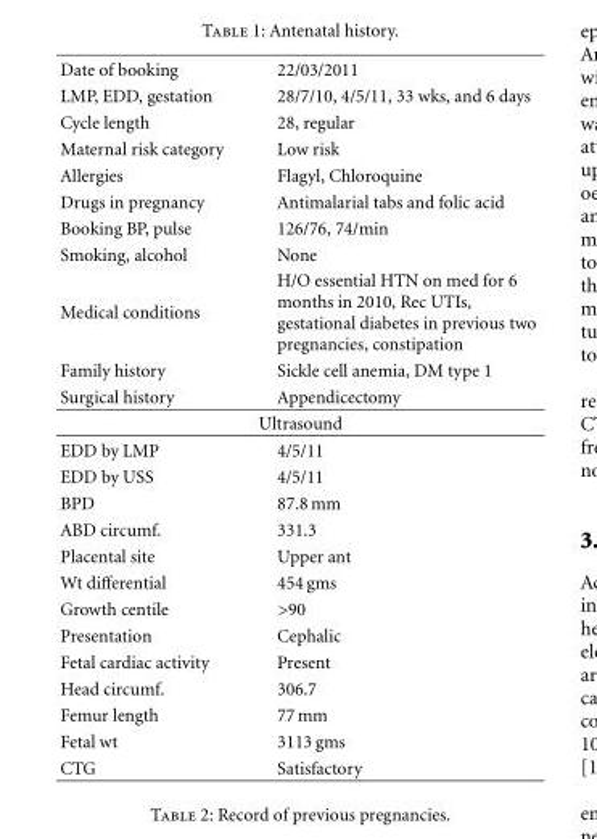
<table><tbody><tr><td>Date of booking</td><td>22/03/2011</td></tr><tr><td>LMP, EDD, gestation</td><td>28/7/10, 4/5/11, 33 wks, and 6 days</td></tr><tr><td>Cycle length</td><td>28, regular</td></tr><tr><td>Maternal risk category</td><td>Low risk</td></tr><tr><td>Allergies</td><td>Flagyl, Chloroquine</td></tr><tr><td>Drugs in pregnancy</td><td>Antimalarial tabs and folic acid</td></tr><tr><td>Booking BP, pulse</td><td>126/76, 74/min</td></tr><tr><td>Smoking, alcohol</td><td>None</td></tr><tr><td>Medical conditions</td><td>H/O essential HTN on med for 6 months in 2010, Rec UTIs, gestational diabetes in previous two pregnancies, constipation</td></tr><tr><td>Family history</td><td>Sickle cell anemia, DM type 1</td></tr><tr><td>Surgical history</td><td>Appendicectomy</td></tr><tr><td colspan="2">Ultrasound</td></tr><tr><td>EDD by LMP</td><td>4/5/11</td></tr><tr><td>EDD by USS</td><td>4/5/11</td></tr><tr><td>BPD</td><td>87.8 mm</td></tr><tr><td>ABD circumf.</td><td>331.3</td></tr><tr><td>Placental site</td><td>Upper ant</td></tr><tr><td>Wt differential</td><td>454 gms</td></tr><tr><td>Growth centile</td><td>&gt;90</td></tr><tr><td>Presentation</td><td>Cephalic</td></tr><tr><td>Fetal cardiac activity</td><td>Present</td></tr><tr><td>Head circumf.</td><td>306.7</td></tr><tr><td>Femur length</td><td>77 mm</td></tr><tr><td>Fetal wt</td><td>3113 gms</td></tr><tr><td>CTG</td><td>Satisfactory</td></tr></tbody></table>